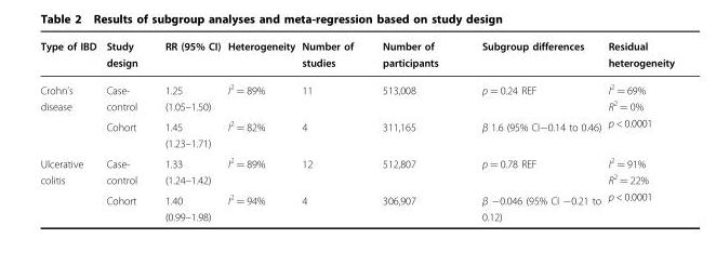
<table><thead><tr><td>Type of IBD</td><td>Study design</td><td>RR (95% CI)</td><td>Heterogeneity</td><td>Number of studies</td><td>Number of participants</td><td>Subgroup differences</td><td>Residual heterogeneity</td></tr></thead><tbody><tr><td rowspan="2">Crohn’s disease</td><td>Case- control</td><td>1.25 (1.05–1.50)</td><td>I<sup>2</sup> = 89%</td><td>11</td><td>513,008</td><td>p = 0.24 REF</td><td rowspan="2">I<sup>2</sup> = 69% R<sup>2</sup> = 0% p &lt; 0.0001</td></tr><tr><td>Cohort</td><td>1.45 (1.23–1.71)</td><td>I<sup>2</sup> = 82%</td><td>4</td><td>311,165</td><td>β 1.6 (95% CI−0.14 to 0.46)</td></tr><tr><td rowspan="2">Ulcerative colitis</td><td>Case- control</td><td>1.33 (1.24–1.42)</td><td>I<sup>2</sup> = 89%</td><td>12</td><td>512,807</td><td>p = 0.78 REF</td><td rowspan="2">I<sup>2</sup> = 91% R<sup>2</sup> = 22% p &lt; 0.0001</td></tr><tr><td>Cohort</td><td>1.40 (0.99–1.98)</td><td>I<sup>2</sup> = 94%</td><td>4</td><td>306,907</td><td>β −0.046 (95% CI −0.21 to 0.12)</td></tr></tbody></table>